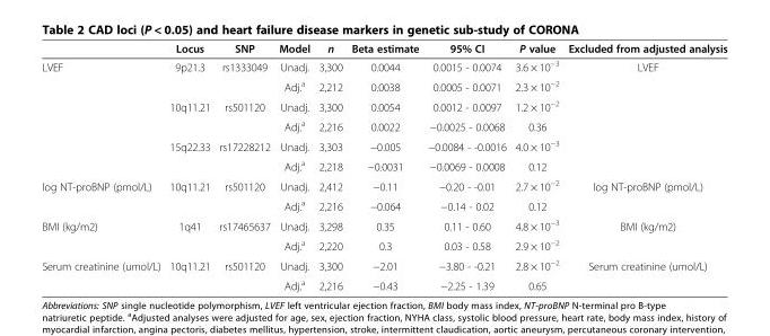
<table><thead><tr><td></td><td>Locus</td><td>SNP</td><td>Model</td><td>n</td><td>Beta estimate</td><td>95% CI</td><td>P value</td><td>Excluded from adjusted analysis</td></tr></thead><tbody><tr><td rowspan="6">LVEF</td><td>9p21.3</td><td>rs1333049</td><td>Unadj.</td><td>3,300</td><td>0.0044</td><td>0.0015 - 0.0074</td><td>3.6 × 10<sup>−3</sup></td><td>LVEF</td></tr><tr><td></td><td></td><td>Adj.<sup>a</sup></td><td>2,212</td><td>0.0038</td><td>0.0005 - 0.0071</td><td>2.3 × 10<sup>−2</sup></td><td></td></tr><tr><td>10q11.21</td><td>rs501120</td><td>Unadj.</td><td>3,300</td><td>0.0054</td><td>0.0012 - 0.0097</td><td>1.2 × 10<sup>−2</sup></td><td></td></tr><tr><td></td><td></td><td>Adj.<sup>a</sup></td><td>2,216</td><td>0.0022</td><td>−0.0025 - 0.0068</td><td>0.36</td><td></td></tr><tr><td>15q22.33</td><td>rs17228212</td><td>Unadj.</td><td>3,303</td><td>−0.005</td><td>−0.0084 - -0.0016</td><td>4.0 × 10<sup>−3</sup></td><td></td></tr><tr><td></td><td></td><td>Adj.<sup>a</sup></td><td>2,218</td><td>−0.0031</td><td>−0.0069 - 0.0008</td><td>0.12</td><td></td></tr><tr><td rowspan="2">log NT-proBNP (pmol/L)</td><td>10q11.21</td><td>rs501120</td><td>Unadj.</td><td>2,412</td><td>−0.11</td><td>−0.20 - -0.01</td><td>2.7 × 10<sup>−2</sup></td><td>log NT-proBNP (pmol/L)</td></tr><tr><td></td><td></td><td>Adj.<sup>a</sup></td><td>2,216</td><td>−0.064</td><td>−0.14 - 0.02</td><td>0.12</td><td></td></tr><tr><td rowspan="2">BMI (kg/m2)</td><td>1q41</td><td>rs17465637</td><td>Unadj.</td><td>3,298</td><td>0.35</td><td>0.11 - 0.60</td><td>4.8 × 10<sup>−3</sup></td><td>BMI (kg/m2)</td></tr><tr><td></td><td></td><td>Adj.<sup>a</sup></td><td>2,220</td><td>0.3</td><td>0.03 - 0.58</td><td>2.9 × 10<sup>−2</sup></td><td></td></tr><tr><td rowspan="2">Serum creatinine (umol/L)</td><td>10q11.21</td><td>rs501120</td><td>Unadj.</td><td>3,300</td><td>−2.01</td><td>−3.80 - -0.21</td><td>2.8 × 10<sup>−2</sup></td><td>Serum creatinine (umol/L)</td></tr><tr><td></td><td></td><td>Adj.<sup>a</sup></td><td>2,216</td><td>−0.43</td><td>−2.25 - 1.39</td><td>0.65</td><td></td></tr></tbody></table>